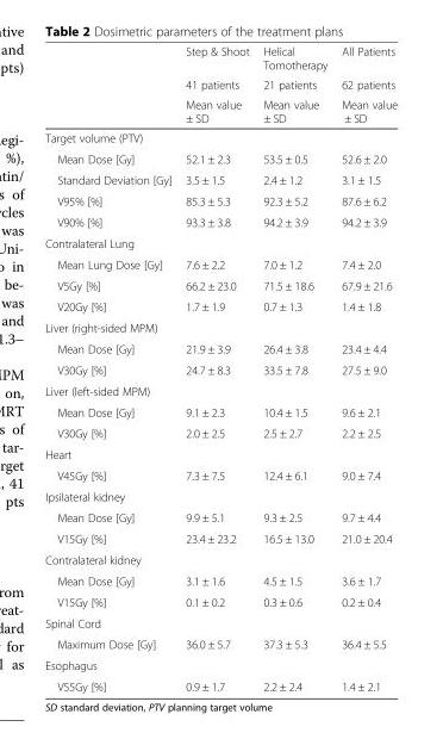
<table><thead><tr><td rowspan="3"></td><td rowspan="3">Step &amp; Shoot 41 patients Mean value ± SD</td><td rowspan="3">Helical Tomotherapy 21 patients Mean value ± SD</td><td rowspan="3">All Patients 62 patients Mean value ± SD</td></tr><tr></tr><tr></tr></thead><tbody><tr><td colspan="4">Target volume (PTV)</td></tr><tr><td>Mean Dose [Gy]</td><td>52.1 ± 2.3</td><td>53.5 ± 0.5</td><td>52.6 ± 2.0</td></tr><tr><td>Standard Deviation [Gy]</td><td>3.5 ± 1.5</td><td>2.4 ± 1.2</td><td>3.1 ± 1.5</td></tr><tr><td>V95% [%]</td><td>85.3 ± 5.3</td><td>92.3 ± 5.2</td><td>87.6 ± 6.2</td></tr><tr><td>V90% [%]</td><td>93.3 ± 3.8</td><td>94.2 ± 3.9</td><td>94.2 ± 3.9</td></tr><tr><td colspan="4">Contralateral Lung</td></tr><tr><td>Mean Lung Dose [Gy]</td><td>7.6 ± 2.2</td><td>7.0 ± 1.2</td><td>7.4 ± 2.0</td></tr><tr><td>V5Gy [%]</td><td>66.2 ± 23.0</td><td>71.5 ± 18.6</td><td>67.9 ± 21.6</td></tr><tr><td>V20Gy [%]</td><td>1.7 ± 1.9</td><td>0.7 ± 1.3</td><td>1.4 ± 1.8</td></tr><tr><td colspan="4">Liver (right-sided MPM)</td></tr><tr><td>Mean Dose [Gy]</td><td>21.9 ± 3.9</td><td>26.4 ± 3.8</td><td>23.4 ± 4.4</td></tr><tr><td>V30Gy [%]</td><td>24.7 ± 8.3</td><td>33.5 ± 7.8</td><td>27.5 ± 9.0</td></tr><tr><td colspan="4">Liver (left-sided MPM)</td></tr><tr><td>Mean Dose [Gy]</td><td>9.1 ± 2.3</td><td>10.4 ± 1.5</td><td>9.6 ± 2.1</td></tr><tr><td>V30Gy [%]</td><td>2.0 ± 2.5</td><td>2.5 ± 2.7</td><td>2.2 ± 2.5</td></tr><tr><td colspan="4">Heart</td></tr><tr><td>V45Gy [%]</td><td>7.3 ± 7.5</td><td>12.4 ± 6.1</td><td>9.0 ± 7.4</td></tr><tr><td colspan="4">Ipsilateral kidney</td></tr><tr><td>Mean Dose [Gy]</td><td>9.9 ± 5.1</td><td>9.3 ± 2.5</td><td>9.7 ± 4.4</td></tr><tr><td>V15Gy [%]</td><td>23.4 ± 23.2</td><td>16.5 ± 13.0</td><td>21.0 ± 20.4</td></tr><tr><td colspan="4">Contralateral kidney</td></tr><tr><td>Mean Dose [Gy]</td><td>3.1 ± 1.6</td><td>4.5 ± 1.5</td><td>3.6 ± 1.7</td></tr><tr><td>V15Gy [%]</td><td>0.1 ± 0.2</td><td>0.3 ± 0.6</td><td>0.2 ± 0.4</td></tr><tr><td colspan="4">Spinal Cord</td></tr><tr><td>Maximum Dose [Gy]</td><td>36.0 ± 5.7</td><td>37.3 ± 5.3</td><td>36.4 ± 5.5</td></tr><tr><td colspan="4">Esophagus</td></tr><tr><td>V55Gy [%]</td><td>0.9 ± 1.7</td><td>2.2 ± 2.4</td><td>1.4 ± 2.1</td></tr></tbody></table>